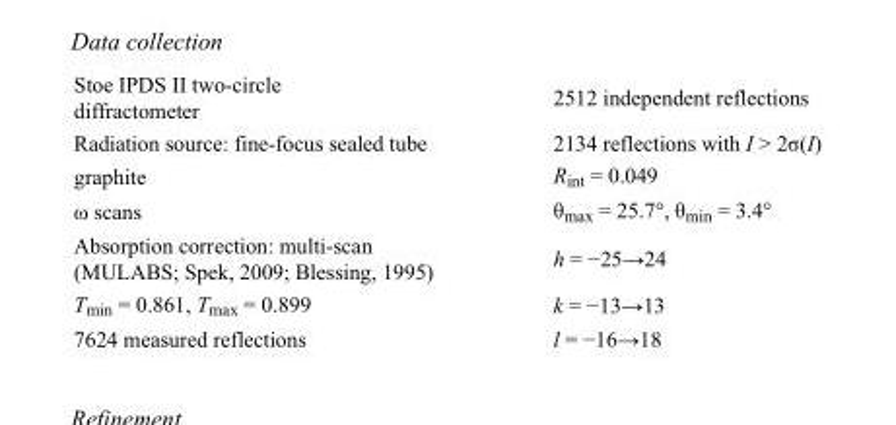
<table><tbody><tr><td>Stoe IPDS II two-circle diffractometer</td><td>2512 independent reflections</td></tr><tr><td>Radiation source: fine-focus sealed tube</td><td>2134 reflections with I &gt; 2σ(I)</td></tr><tr><td>graphite</td><td>R<sub>int</sub> = 0.049</td></tr><tr><td>ω scans</td><td>θ<sub>max</sub> = 25.7°, θ<sub>min</sub> = 3.4°</td></tr><tr><td>Absorption correction: multi-scan (MULABS; Spek, 2009; Blessing, 1995)</td><td>h = −25→24</td></tr><tr><td>T<sub>min</sub> = 0.861, T<sub>max</sub> = 0.899</td><td>k = −13→13</td></tr><tr><td>7624 measured reflections</td><td>l = −16→18</td></tr></tbody></table>